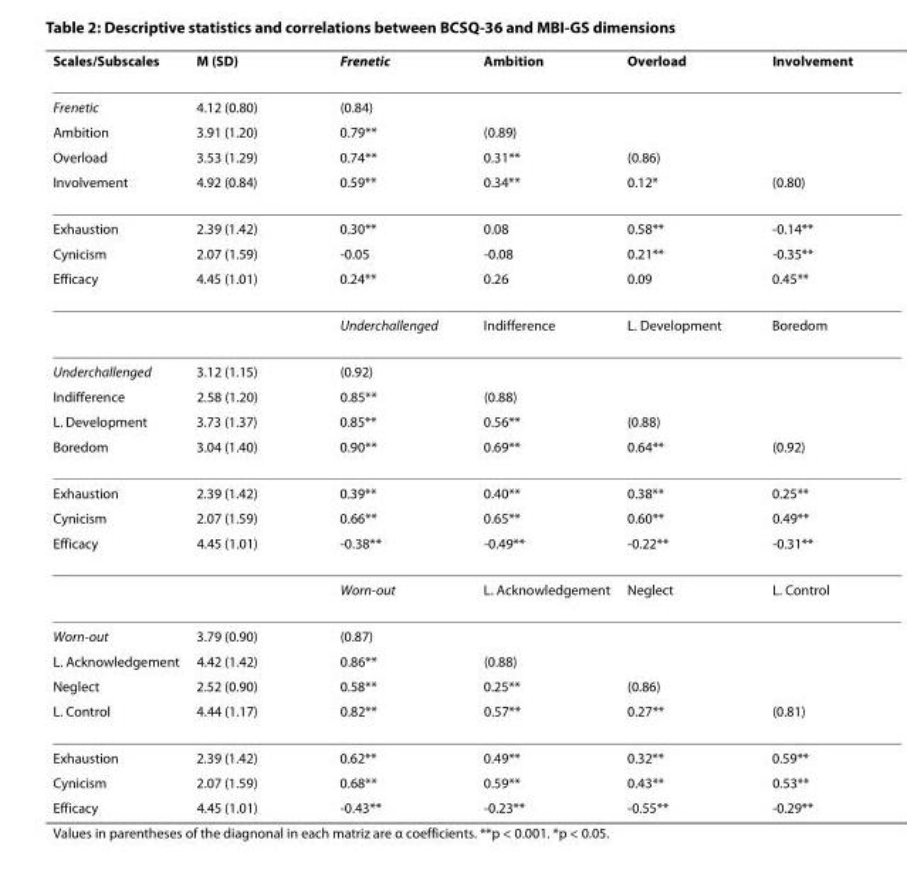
<table><thead><tr><td>Scales/Subscales</td><td>M (SD)</td><td>Frenetic</td><td>Ambition</td><td>Overload</td><td>Involvement</td></tr></thead><tbody><tr><td>Frenetic</td><td>4.12 (0.80)</td><td>(0.84)</td><td></td><td></td><td></td></tr><tr><td>Ambition</td><td>3.91 (1.20)</td><td>0.79**</td><td>(0.89)</td><td></td><td></td></tr><tr><td>Overload</td><td>3.53 (1.29)</td><td>0.74**</td><td>0.31**</td><td>(0.86)</td><td></td></tr><tr><td>Involvement</td><td>4.92 (0.84)</td><td>0.59**</td><td>0.34**</td><td>0.12*</td><td>(0.80)</td></tr><tr><td>Exhaustion</td><td>2.39 (1.42)</td><td>0.30**</td><td>0.08</td><td>0.58**</td><td>-0.14**</td></tr><tr><td>Cynicism</td><td>2.07 (1.59)</td><td>-0.05</td><td>-0.08</td><td>0.21**</td><td>-0.35**</td></tr><tr><td rowspan="2">Efficacy</td><td>4.45 (1.01)</td><td>0.24**</td><td>0.26</td><td>0.09</td><td>0.45**</td></tr><tr><td></td><td>Underchallenged</td><td>Indifference</td><td>L. Development</td><td>Boredom</td></tr><tr><td>Underchallenged</td><td>3.12 (1.15)</td><td>(0.92)</td><td></td><td></td><td></td></tr><tr><td>Indifference</td><td>2.58 (1.20)</td><td>0.85**</td><td>(0.88)</td><td></td><td></td></tr><tr><td>L. Development</td><td>3.73 (1.37)</td><td>0.85**</td><td>0.56**</td><td>(0.88)</td><td></td></tr><tr><td>Boredom</td><td>3.04 (1.40)</td><td>0.90**</td><td>0.69**</td><td>0.64**</td><td>(0.92)</td></tr><tr><td>Exhaustion</td><td>2.39 (1.42)</td><td>0.39**</td><td>0.40**</td><td>0.38**</td><td>0.25**</td></tr><tr><td>Cynicism</td><td>2.07 (1.59)</td><td>0.66**</td><td>0.65**</td><td>0.60**</td><td>0.49**</td></tr><tr><td rowspan="2">Efficacy</td><td>4.45 (1.01)</td><td>-0.38**</td><td>-0.49**</td><td>-0.22**</td><td>-0.31**</td></tr><tr><td></td><td>Worn-out</td><td>L. Acknowledgement</td><td>Neglect</td><td>L. Control</td></tr><tr><td>Worn-out</td><td>3.79 (0.90)</td><td>(0.87)</td><td></td><td></td><td></td></tr><tr><td>L. Acknowledgement</td><td>4.42 (1.42)</td><td>0.86**</td><td>(0.88)</td><td></td><td></td></tr><tr><td>Neglect</td><td>2.52 (0.90)</td><td>0.58**</td><td>0.25**</td><td>(0.86)</td><td></td></tr><tr><td>L. Control</td><td>4.44 (1.17)</td><td>0.82**</td><td>0.57**</td><td>0.27**</td><td>(0.81)</td></tr><tr><td>Exhaustion</td><td>2.39 (1.42)</td><td>0.62**</td><td>0.49**</td><td>0.32**</td><td>0.59**</td></tr><tr><td>Cynicism</td><td>2.07 (1.59)</td><td>0.68**</td><td>0.59**</td><td>0.43**</td><td>0.53**</td></tr><tr><td>Efficacy</td><td>4.45 (1.01)</td><td>-0.43**</td><td>-0.23**</td><td>-0.55**</td><td>-0.29**</td></tr></tbody></table>